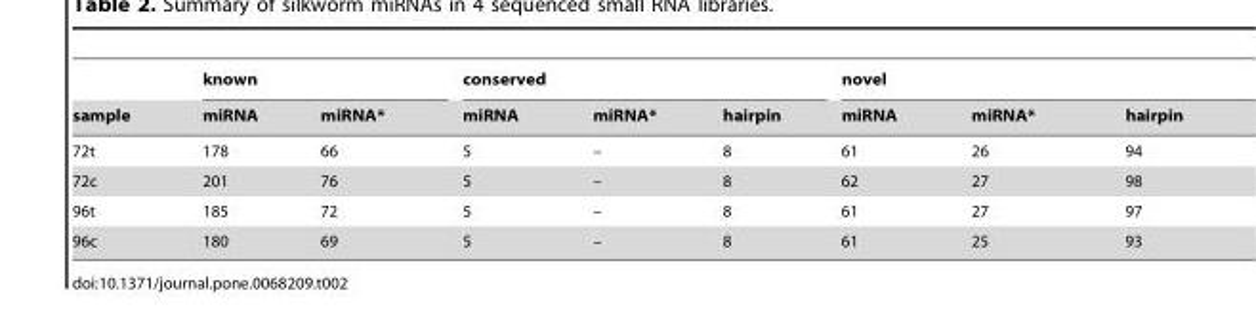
<table><thead><tr><td rowspan="2">sample</td><td colspan="2">known</td><td colspan="3">conserved</td><td colspan="3">novel</td></tr><tr><td>miRNA</td><td>miRNA*</td><td>miRNA</td><td>miRNA*</td><td>hairpin</td><td>miRNA</td><td>miRNA*</td><td>hairpin</td></tr></thead><tbody><tr><td>72t</td><td>178</td><td>66</td><td>5</td><td>–</td><td>8</td><td>61</td><td>26</td><td>94</td></tr><tr><td>72c</td><td>201</td><td>76</td><td>5</td><td>–</td><td>8</td><td>62</td><td>27</td><td>98</td></tr><tr><td>96t</td><td>185</td><td>72</td><td>5</td><td>–</td><td>8</td><td>61</td><td>27</td><td>97</td></tr><tr><td>96c</td><td>180</td><td>69</td><td>5</td><td>–</td><td>8</td><td>61</td><td>25</td><td>93</td></tr></tbody></table>